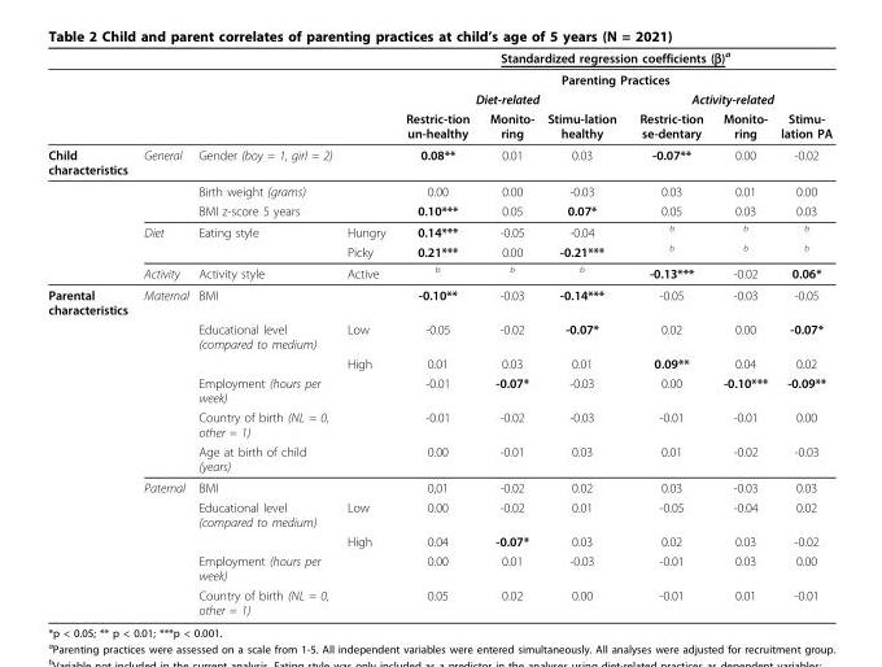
<table><thead><tr><td rowspan="4"></td><td rowspan="4"></td><td rowspan="4"></td><td rowspan="4"></td><td rowspan="2" colspan="6">Standardized regression coefficients (β)<sup>a</sup> Parenting Practices</td></tr><tr></tr><tr><td colspan="3">Diet-related</td><td colspan="3">Activity-related</td></tr><tr><td>Restric-tion un-healthy</td><td>Monito- ring</td><td>Stimu-lation healthy</td><td>Restric-tion se-dentary</td><td>Monito- ring</td><td>Stimu- lation PA</td></tr></thead><tbody><tr><td rowspan="6">Child characteristics</td><td>General</td><td>Gender (boy = 1, girl = 2)</td><td></td><td>0.08**</td><td>0.01</td><td>0.03</td><td>-0.07**</td><td>0.00</td><td>-0.02</td></tr><tr><td></td><td>Birth weight (grams)</td><td></td><td>0.00</td><td>0.00</td><td>-0.03</td><td>0.03</td><td>0.01</td><td>0.00</td></tr><tr><td></td><td>BMI z-score 5 years</td><td></td><td>0.10***</td><td>0.05</td><td>0.07*</td><td>0.05</td><td>0.03</td><td>0.03</td></tr><tr><td>Diet</td><td>Eating style</td><td>Hungry</td><td>0.14***</td><td>-0.05</td><td>-0.04</td><td><sup>b</sup></td><td><sup>b</sup></td><td><sup>b</sup></td></tr><tr><td></td><td></td><td>Picky</td><td>0.21***</td><td>0.00</td><td>-0.21***</td><td><sup>b</sup></td><td><sup>b</sup></td><td><sup>b</sup></td></tr><tr><td>Activity</td><td>Activity style</td><td>Active</td><td><sup>b</sup></td><td><sup>b</sup></td><td><sup>b</sup></td><td>-0.13***</td><td>-0.02</td><td>0.06*</td></tr><tr><td rowspan="11">Parental characteristics</td><td>Maternal</td><td>BMI</td><td></td><td>-0.10**</td><td>-0.03</td><td>-0.14***</td><td>-0.05</td><td>-0.03</td><td>-0.05</td></tr><tr><td></td><td>Educational level (compared to medium)</td><td>Low</td><td>-0.05</td><td>-0.02</td><td>-0.07*</td><td>0.02</td><td>0.00</td><td>-0.07*</td></tr><tr><td></td><td></td><td>High</td><td>0.01</td><td>0.03</td><td>0.01</td><td>0.09**</td><td>0.04</td><td>0.02</td></tr><tr><td></td><td>Employment (hours per week)</td><td></td><td>-0.01</td><td>-0.07*</td><td>-0.03</td><td>0.00</td><td>-0.10***</td><td>-0.09**</td></tr><tr><td></td><td>Country of birth (NL = 0, other = 1)</td><td></td><td>-0.01</td><td>-0.02</td><td>-0.03</td><td>-0.01</td><td>-0.01</td><td>0.00</td></tr><tr><td></td><td>Age at birth of child (years)</td><td></td><td>0.00</td><td>-0.01</td><td>0.03</td><td>0.01</td><td>-0.02</td><td>-0.03</td></tr><tr><td>Paternal</td><td>BMI</td><td></td><td>0,01</td><td>-0.02</td><td>0.02</td><td>0.03</td><td>-0.03</td><td>0.03</td></tr><tr><td></td><td>Educational level (compared to medium)</td><td>Low</td><td>0.00</td><td>-0.02</td><td>0.01</td><td>-0.05</td><td>-0.04</td><td>0.02</td></tr><tr><td></td><td></td><td>High</td><td>0.04</td><td>-0.07*</td><td>0.03</td><td>0.02</td><td>0.03</td><td>-0.02</td></tr><tr><td></td><td>Employment (hours per week)</td><td></td><td>0.00</td><td>0.01</td><td>-0.03</td><td>-0.01</td><td>0.03</td><td>0.00</td></tr><tr><td></td><td>Country of birth (NL = 0, other = 1)</td><td></td><td>0.05</td><td>0.02</td><td>0.00</td><td>-0.01</td><td>0.01</td><td>-0.01</td></tr></tbody></table>